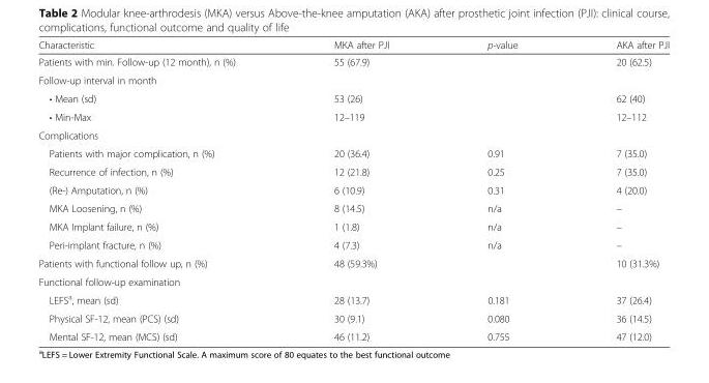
<table><thead><tr><td>Characteristic</td><td>MKA after PJI</td><td>p-value</td><td>AKA after PJI</td></tr></thead><tbody><tr><td>Patients with min. Follow-up (12 month), n (%)</td><td>55 (67.9)</td><td></td><td>20 (62.5)</td></tr><tr><td colspan="4">Follow-up interval in month</td></tr><tr><td>• Mean (sd)</td><td>53 (26)</td><td></td><td>62 (40)</td></tr><tr><td>• Min-Max</td><td>12–119</td><td></td><td>12–112</td></tr><tr><td colspan="4">Complications</td></tr><tr><td>Patients with major complication, n (%)</td><td>20 (36.4)</td><td>0.91</td><td>7 (35.0)</td></tr><tr><td>Recurrence of infection, n (%)</td><td>12 (21.8)</td><td>0.25</td><td>7 (35.0)</td></tr><tr><td>(Re-) Amputation, n (%)</td><td>6 (10.9)</td><td>0.31</td><td>4 (20.0)</td></tr><tr><td>MKA Loosening, n (%)</td><td>8 (14.5)</td><td>n/a</td><td>–</td></tr><tr><td>MKA Implant failure, n (%)</td><td>1 (1.8)</td><td>n/a</td><td>–</td></tr><tr><td>Peri-implant fracture, n (%)</td><td>4 (7.3)</td><td>n/a</td><td>–</td></tr><tr><td>Patients with functional follow up, n (%)</td><td>48 (59.3%)</td><td></td><td>10 (31.3%)</td></tr><tr><td colspan="4">Functional follow-up examination</td></tr><tr><td>LEFS<sup>a</sup>, mean (sd)</td><td>28 (13.7)</td><td>0.181</td><td>37 (26.4)</td></tr><tr><td>Physical SF-12, mean (PCS) (sd)</td><td>30 (9.1)</td><td>0.080</td><td>36 (14.5)</td></tr><tr><td>Mental SF-12, mean (MCS) (sd)</td><td>46 (11.2)</td><td>0.755</td><td>47 (12.0)</td></tr></tbody></table>